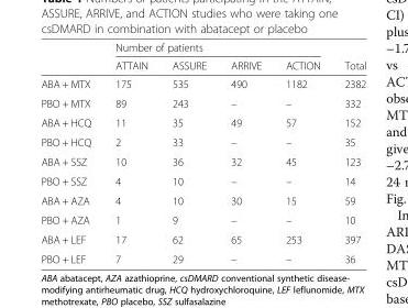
<table><thead><tr><td rowspan="2"></td><td colspan="4">Number of patients</td><td rowspan="2">Total</td></tr><tr><td>ATTAIN</td><td>ASSURE</td><td>ARRIVE</td><td>ACTION</td></tr></thead><tbody><tr><td>ABA + MTX</td><td>175</td><td>535</td><td>490</td><td>1182</td><td>2382</td></tr><tr><td>PBO + MTX</td><td>89</td><td>243</td><td>–</td><td>–</td><td>332</td></tr><tr><td>ABA + HCQ</td><td>11</td><td>35</td><td>49</td><td>57</td><td>152</td></tr><tr><td>PBO + HCQ</td><td>2</td><td>33</td><td>–</td><td>–</td><td>35</td></tr><tr><td>ABA + SSZ</td><td>10</td><td>36</td><td>32</td><td>45</td><td>123</td></tr><tr><td>PBO + SSZ</td><td>4</td><td>10</td><td>–</td><td>–</td><td>14</td></tr><tr><td>ABA + AZA</td><td>4</td><td>10</td><td>30</td><td>15</td><td>59</td></tr><tr><td>PBO + AZA</td><td>1</td><td>9</td><td>–</td><td>–</td><td>10</td></tr><tr><td>ABA + LEF</td><td>17</td><td>62</td><td>65</td><td>253</td><td>397</td></tr><tr><td>PBO + LEF</td><td>7</td><td>29</td><td>–</td><td>–</td><td>36</td></tr></tbody></table>